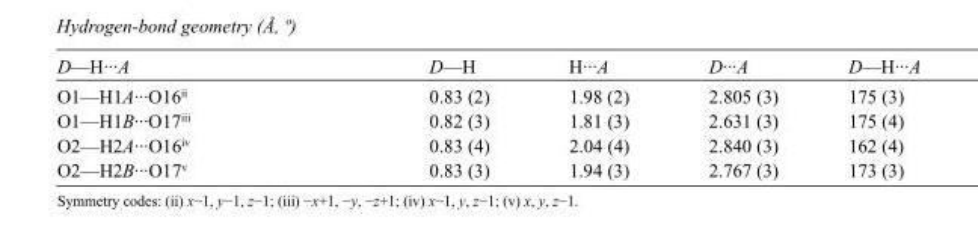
<table><tbody><tr><td>D—H···A</td><td>D—H</td><td>H···A</td><td>D···A</td><td>D—H···A</td></tr><tr><td>O1—H1A···O16<sup>ii</sup></td><td>0.83 (2)</td><td>1.98 (2)</td><td>2.805 (3)</td><td>175 (3)</td></tr><tr><td>O1—H1B···O17<sup>iii</sup></td><td>0.82 (3)</td><td>1.81 (3)</td><td>2.631 (3)</td><td>175 (4)</td></tr><tr><td>O2—H2A···O16<sup>iv</sup></td><td>0.83 (4)</td><td>2.04 (4)</td><td>2.840 (3)</td><td>162 (4)</td></tr><tr><td>O2—H2B···O17<sup>v</sup></td><td>0.83 (3)</td><td>1.94 (3)</td><td>2.767 (3)</td><td>173 (3)</td></tr></tbody></table>